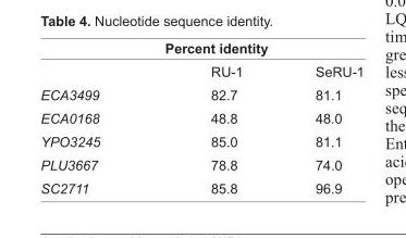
<table><thead><tr><td colspan="3">Percent identity</td></tr><tr><td></td><td>RU-1</td><td>SeRU-1</td></tr></thead><tbody><tr><td>ECA3499</td><td>82.7</td><td>81.1</td></tr><tr><td>ECA0168</td><td>48.8</td><td>48.0</td></tr><tr><td>YPO3245</td><td>85.0</td><td>81.1</td></tr><tr><td>PLU3667</td><td>78.8</td><td>74.0</td></tr><tr><td>SC2711</td><td>85.8</td><td>96.9</td></tr></tbody></table>